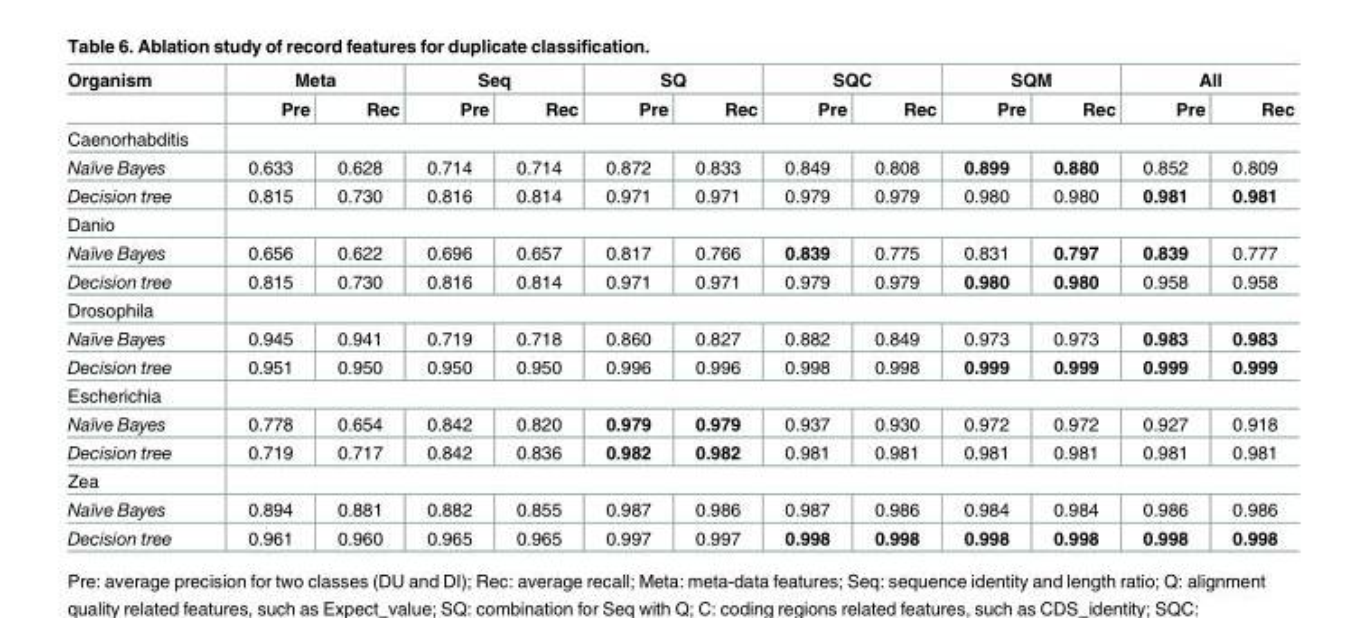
<table><thead><tr><td rowspan="2">Organism</td><td colspan="2">Meta</td><td colspan="2">Seq</td><td colspan="2">SQ</td><td colspan="2">SQC</td><td colspan="2">SQM</td><td colspan="2">All</td></tr><tr><td>Pre</td><td>Rec</td><td>Pre</td><td>Rec</td><td>Pre</td><td>Rec</td><td>Pre</td><td>Rec</td><td>Pre</td><td>Rec</td><td>Pre</td><td>Rec</td></tr></thead><tbody><tr><td colspan="13">Caenorhabditis</td></tr><tr><td>Naïve Bayes</td><td>0.633</td><td>0.628</td><td>0.714</td><td>0.714</td><td>0.872</td><td>0.833</td><td>0.849</td><td>0.808</td><td>0.899</td><td>0.880</td><td>0.852</td><td>0.809</td></tr><tr><td>Decision tree</td><td>0.815</td><td>0.730</td><td>0.816</td><td>0.814</td><td>0.971</td><td>0.971</td><td>0.979</td><td>0.979</td><td>0.980</td><td>0.980</td><td>0.981</td><td>0.981</td></tr><tr><td colspan="13">Danio</td></tr><tr><td>Naïve Bayes</td><td>0.656</td><td>0.622</td><td>0.696</td><td>0.657</td><td>0.817</td><td>0.766</td><td>0.839</td><td>0.775</td><td>0.831</td><td>0.797</td><td>0.839</td><td>0.777</td></tr><tr><td>Decision tree</td><td>0.815</td><td>0.730</td><td>0.816</td><td>0.814</td><td>0.971</td><td>0.971</td><td>0.979</td><td>0.979</td><td>0.980</td><td>0.980</td><td>0.958</td><td>0.958</td></tr><tr><td colspan="13">Drosophila</td></tr><tr><td>Naïve Bayes</td><td>0.945</td><td>0.941</td><td>0.719</td><td>0.718</td><td>0.860</td><td>0.827</td><td>0.882</td><td>0.849</td><td>0.973</td><td>0.973</td><td>0.983</td><td>0.983</td></tr><tr><td>Decision tree</td><td>0.951</td><td>0.950</td><td>0.950</td><td>0.950</td><td>0.996</td><td>0.996</td><td>0.998</td><td>0.998</td><td>0.999</td><td>0.999</td><td>0.999</td><td>0.999</td></tr><tr><td colspan="13">Escherichia</td></tr><tr><td>Naïve Bayes</td><td>0.778</td><td>0.654</td><td>0.842</td><td>0.820</td><td>0.979</td><td>0.979</td><td>0.937</td><td>0.930</td><td>0.972</td><td>0.972</td><td>0.927</td><td>0.918</td></tr><tr><td>Decision tree</td><td>0.719</td><td>0.717</td><td>0.842</td><td>0.836</td><td>0.982</td><td>0.982</td><td>0.981</td><td>0.981</td><td>0.981</td><td>0.981</td><td>0.981</td><td>0.981</td></tr><tr><td colspan="13">Zea</td></tr><tr><td>Naïve Bayes</td><td>0.894</td><td>0.881</td><td>0.882</td><td>0.855</td><td>0.987</td><td>0.986</td><td>0.987</td><td>0.986</td><td>0.984</td><td>0.984</td><td>0.986</td><td>0.986</td></tr><tr><td>Decision tree</td><td>0.961</td><td>0.960</td><td>0.965</td><td>0.965</td><td>0.997</td><td>0.997</td><td>0.998</td><td>0.998</td><td>0.998</td><td>0.998</td><td>0.998</td><td>0.998</td></tr></tbody></table>